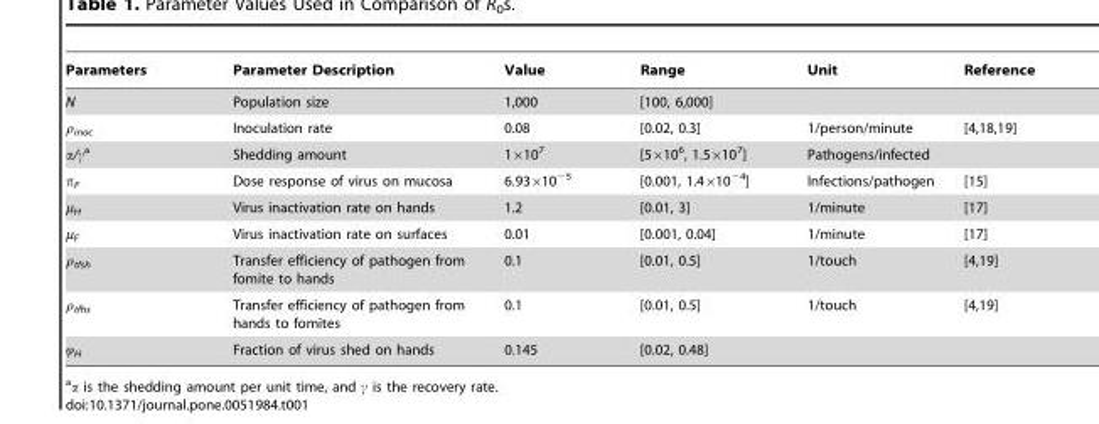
<table><thead><tr><td>Parameters</td><td>Parameter Description</td><td>Value</td><td>Range</td><td>Unit</td><td>Reference</td></tr></thead><tbody><tr><td>N</td><td>Population size</td><td>1,000</td><td>[100, 6,000]</td><td></td><td></td></tr><tr><td>ρ<sub>inoc</sub></td><td>Inoculation rate</td><td>0.08</td><td>[0.02, 0.3]</td><td>1/person/minute</td><td>[4,18,19]</td></tr><tr><td>α/γa</td><td>Shedding amount</td><td>1×10<sup>7</sup></td><td>[5×10<sup>6</sup>, 1.5×10<sup>7</sup>]</td><td>Pathogens/infected</td><td></td></tr><tr><td>π<sub>F</sub></td><td>Dose response of virus on mucosa</td><td>6.93×10<sup>−5</sup></td><td>[0.001, 1.4×10<sup>−4</sup>]</td><td>Infections/pathogen</td><td>[15]</td></tr><tr><td>µ<sub>H</sub></td><td>Virus inactivation rate on hands</td><td>1.2</td><td>[0.01, 3]</td><td>1/minute</td><td>[17]</td></tr><tr><td>µ<sub>F</sub></td><td>Virus inactivation rate on surfaces</td><td>0.01</td><td>[0.001, 0.04]</td><td>1/minute</td><td>[17]</td></tr><tr><td>ρ<sub>tfsh</sub></td><td>Transfer efficiency of pathogen from fomite to hands</td><td>0.1</td><td>[0.01, 0.5]</td><td>1/touch</td><td>[4,19]</td></tr><tr><td>ρ<sub>tfhs</sub></td><td>Transfer efficiency of pathogen from hands to fomites</td><td>0.1</td><td>[0.01, 0.5]</td><td>1/touch</td><td>[4,19]</td></tr><tr><td>φ<sub>H</sub></td><td>Fraction of virus shed on hands</td><td>0.145</td><td>[0.02, 0.48]</td><td></td><td></td></tr></tbody></table>